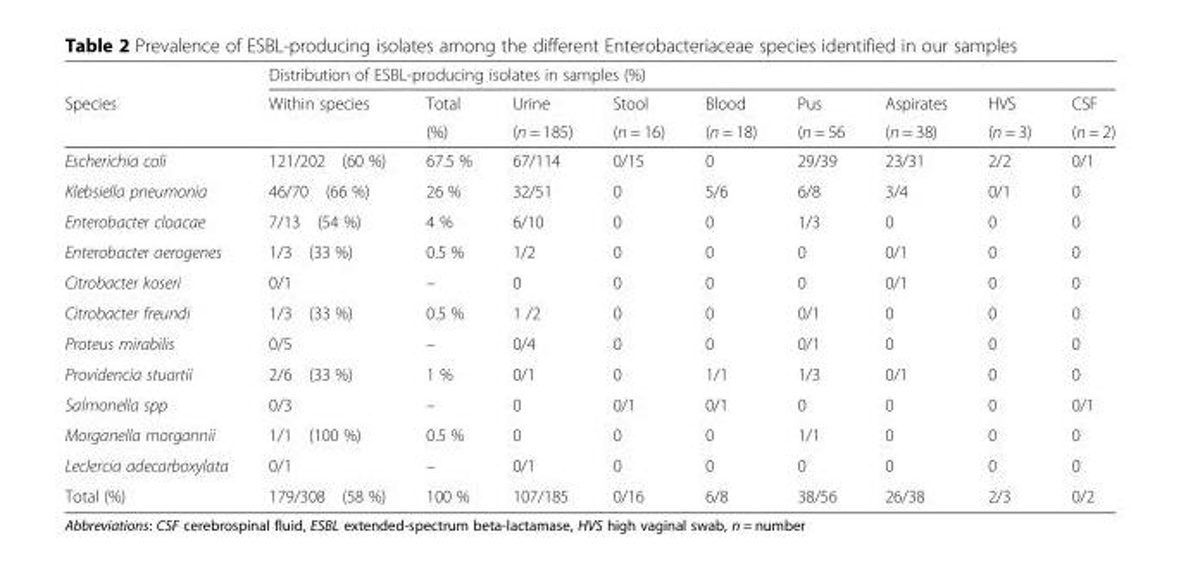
<table><thead><tr><td rowspan="3">Species</td><td colspan="9">Distribution of ESBL-producing isolates in samples (%)</td></tr><tr><td rowspan="2">Within species</td><td rowspan="2">Total (%)</td><td rowspan="2">Urine (n = 185)</td><td rowspan="2">Stool (n = 16)</td><td rowspan="2">Blood (n = 18)</td><td rowspan="2">Pus (n = 56</td><td rowspan="2">Aspirates (n = 38)</td><td rowspan="2">HVS (n = 3)</td><td rowspan="2">CSF (n = 2)</td></tr><tr></tr></thead><tbody><tr><td>Escherichia coli</td><td>121/202 (60 %)</td><td>67.5 %</td><td>67/114</td><td>0/15</td><td>0</td><td>29/39</td><td>23/31</td><td>2/2</td><td>0/1</td></tr><tr><td>Klebsiella pneumonia</td><td>46/70 (66 %)</td><td>26 %</td><td>32/51</td><td>0</td><td>5/6</td><td>6/8</td><td>3/4</td><td>0/1</td><td>0</td></tr><tr><td>Enterobacter cloacae</td><td>7/13 (54 %)</td><td>4 %</td><td>6/10</td><td>0</td><td>0</td><td>1/3</td><td>0</td><td>0</td><td>0</td></tr><tr><td>Enterobacter aerogenes</td><td>1/3 (33 %)</td><td>0.5 %</td><td>1/2</td><td>0</td><td>0</td><td>0</td><td>0/1</td><td>0</td><td>0</td></tr><tr><td>Citrobacter koseri</td><td>0/1</td><td>–</td><td>0</td><td>0</td><td>0</td><td>0</td><td>0/1</td><td>0</td><td>0</td></tr><tr><td>Citrobacter freundi</td><td>1/3 (33 %)</td><td>0.5 %</td><td>1 /2</td><td>0</td><td>0</td><td>0/1</td><td>0</td><td>0</td><td>0</td></tr><tr><td>Proteus mirabilis</td><td>0/5</td><td>–</td><td>0/4</td><td>0</td><td>0</td><td>0/1</td><td>0</td><td>0</td><td>0</td></tr><tr><td>Providencia stuartii</td><td>2/6 (33 %)</td><td>1 %</td><td>0/1</td><td>0</td><td>1/1</td><td>1/3</td><td>0/1</td><td>0</td><td>0</td></tr><tr><td>Salmonella spp</td><td>0/3</td><td>–</td><td>0</td><td>0/1</td><td>0/1</td><td>0</td><td>0</td><td>0</td><td>0/1</td></tr><tr><td>Morganella morgannii</td><td>1/1 (100 %)</td><td>0.5 %</td><td>0</td><td>0</td><td>0</td><td>1/1</td><td>0</td><td>0</td><td>0</td></tr><tr><td>Leclercia adecarboxylata</td><td>0/1</td><td>–</td><td>0/1</td><td>0</td><td>0</td><td>0</td><td>0</td><td>0</td><td>0</td></tr><tr><td>Total (%)</td><td>179/308 (58 %)</td><td>100 %</td><td>107/185</td><td>0/16</td><td>6/8</td><td>38/56</td><td>26/38</td><td>2/3</td><td>0/2</td></tr></tbody></table>